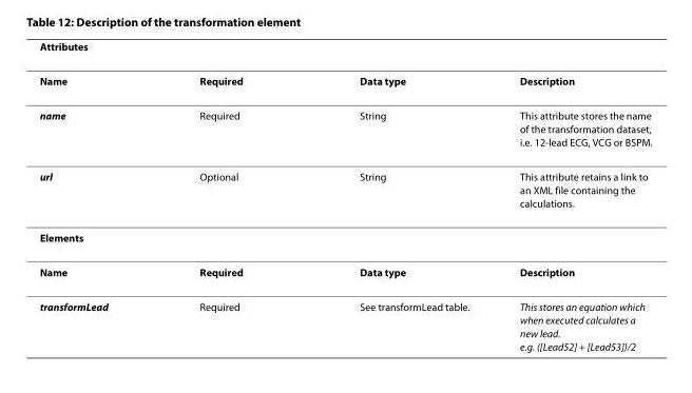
<table><thead><tr><td>Attributes</td><td></td><td></td><td></td></tr></thead><tbody><tr><td>Name</td><td>Required</td><td>Data type</td><td>Description</td></tr><tr><td>name</td><td>Required</td><td>String</td><td>This attribute stores the name of the transformation dataset, i.e. 12-lead ECG, VCG or BSPM.</td></tr><tr><td>url</td><td>Optional</td><td>String</td><td>This attribute retains a link to an XML file containing the calculations.</td></tr><tr><td colspan="4">Elements</td></tr><tr><td>Name</td><td>Required</td><td>Data type</td><td>Description</td></tr><tr><td>transformLead</td><td>Required</td><td>See transformLead table.</td><td>This stores an equation which when executed calculates a new lead. e.g. ([Lead52] + [Lead53])/2</td></tr></tbody></table>